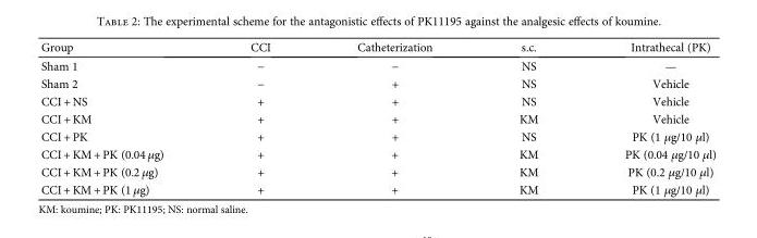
<table><thead><tr><td>Group</td><td>CCI</td><td>Catheterization</td><td>s.c.</td><td>Intrathecal (PK)</td></tr></thead><tbody><tr><td>Sham 1</td><td>−</td><td>−</td><td>NS</td><td>—</td></tr><tr><td>Sham 2</td><td>−</td><td>+</td><td>NS</td><td>Vehicle</td></tr><tr><td>CCI + NS</td><td>+</td><td>+</td><td>NS</td><td>Vehicle</td></tr><tr><td>CCI + KM</td><td>+</td><td>+</td><td>KM</td><td>Vehicle</td></tr><tr><td>CCI + PK</td><td>+</td><td>+</td><td>NS</td><td>PK (1 μg/10 μl)</td></tr><tr><td>CCI + KM + PK (0.04 μg)</td><td>+</td><td>+</td><td>KM</td><td>PK (0.04 μg/10 μl)</td></tr><tr><td>CCI + KM + PK (0.2 μg)</td><td>+</td><td>+</td><td>KM</td><td>PK (0.2 μg/10 μl)</td></tr><tr><td>CCI + KM + PK (1 μg)</td><td>+</td><td>+</td><td>KM</td><td>PK (1 μg/10 μl)</td></tr></tbody></table>